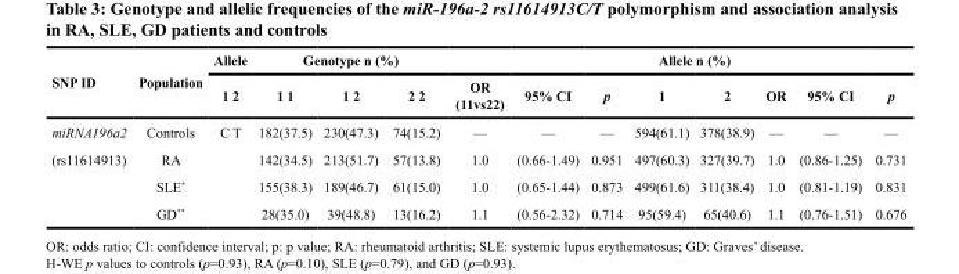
<table><thead><tr><td rowspan="2">SNP ID</td><td rowspan="2">Population</td><td rowspan="2">Allele 1 2</td><td colspan="3">Genotype n (%)</td><td rowspan="2">OR (11vs22)</td><td rowspan="2">95% CI</td><td rowspan="2">p</td><td colspan="2">Allele n (%)</td><td rowspan="2">OR</td><td rowspan="2">95% CI</td><td rowspan="2">p</td></tr><tr><td>1 1</td><td>1 2</td><td>2 2</td><td>1</td><td>2</td></tr></thead><tbody><tr><td>miRNA196a2</td><td>Controls</td><td>C T</td><td>182(37.5)</td><td>230(47.3)</td><td>74(15.2)</td><td>—</td><td>—</td><td>—</td><td>594(61.1)</td><td>378(38.9)</td><td>—</td><td>—</td><td>—</td></tr><tr><td rowspan="3">(rs11614913)</td><td>RA</td><td></td><td>142(34.5)</td><td>213(51.7)</td><td>57(13.8)</td><td>1.0</td><td>(0.66-1.49)</td><td>0.951</td><td>497(60.3)</td><td>327(39.7)</td><td>1.0</td><td>(0.86-1.25)</td><td>0.731</td></tr><tr><td>SLE*</td><td></td><td>155(38.3)</td><td>189(46.7)</td><td>61(15.0)</td><td>1.0</td><td>(0.65-1.44)</td><td>0.873</td><td>499(61.6)</td><td>311(38.4)</td><td>1.0</td><td>(0.81-1.19)</td><td>0.831</td></tr><tr><td>GD**</td><td></td><td>28(35.0)</td><td>39(48.8)</td><td>13(16.2)</td><td>1.1</td><td>(0.56-2.32)</td><td>0.714</td><td>95(59.4)</td><td>65(40.6)</td><td>1.1</td><td>(0.76-1.51)</td><td>0.676</td></tr></tbody></table>